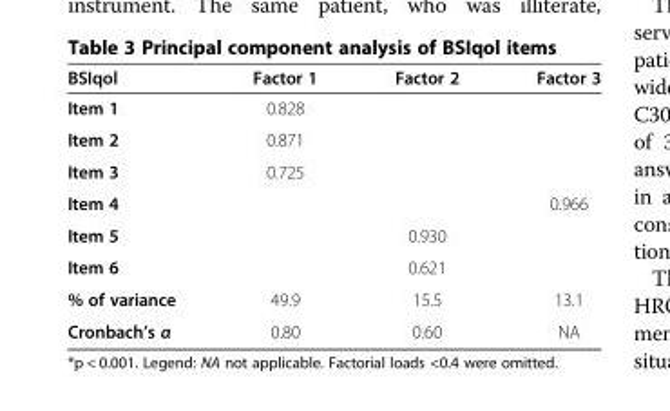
<table><thead><tr><td>BSIqol</td><td>Factor 1</td><td>Factor 2</td><td>Factor 3</td></tr></thead><tbody><tr><td>Item 1</td><td>0.828</td><td></td><td></td></tr><tr><td>Item 2</td><td>0.871</td><td></td><td></td></tr><tr><td>Item 3</td><td>0.725</td><td></td><td></td></tr><tr><td>Item 4</td><td></td><td></td><td>0.966</td></tr><tr><td>Item 5</td><td></td><td>0.930</td><td></td></tr><tr><td>Item 6</td><td></td><td>0.621</td><td></td></tr><tr><td>% of variance</td><td>49.9</td><td>15.5</td><td>13.1</td></tr><tr><td>Cronbach’s α</td><td>0.80</td><td>0.60</td><td>NA</td></tr></tbody></table>